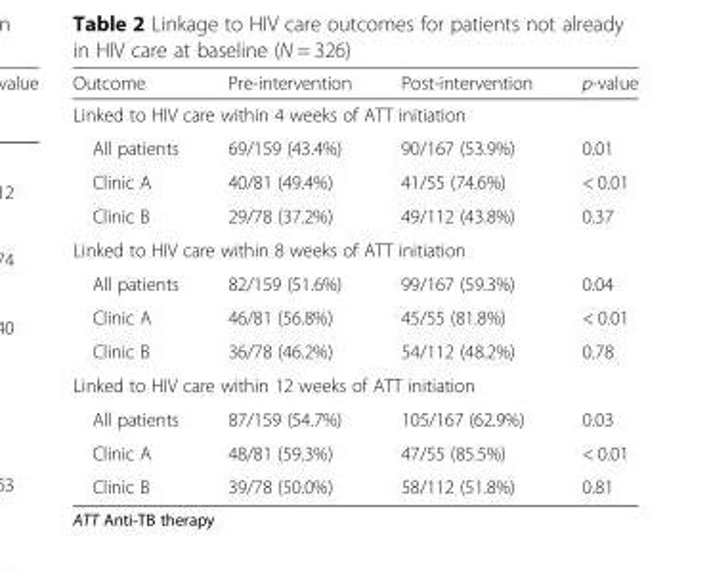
<table><thead><tr><td>Outcome</td><td>Pre-intervention</td><td>Post-intervention</td><td>p-value</td></tr></thead><tbody><tr><td colspan="4">Linked to HIV care within 4 weeks of ATT initiation</td></tr><tr><td>All patients</td><td>69/159 (43.4%)</td><td>90/167 (53.9%)</td><td>0.01</td></tr><tr><td>Clinic A</td><td>40/81 (49.4%)</td><td>41/55 (74.6%)</td><td>&lt; 0.01</td></tr><tr><td>Clinic B</td><td>29/78 (37.2%)</td><td>49/112 (43.8%)</td><td>0.37</td></tr><tr><td colspan="4">Linked to HIV care within 8 weeks of ATT initiation</td></tr><tr><td>All patients</td><td>82/159 (51.6%)</td><td>99/167 (59.3%)</td><td>0.04</td></tr><tr><td>Clinic A</td><td>46/81 (56.8%)</td><td>45/55 (81.8%)</td><td>&lt; 0.01</td></tr><tr><td>Clinic B</td><td>36/78 (46.2%)</td><td>54/112 (48.2%)</td><td>0.78</td></tr><tr><td colspan="4">Linked to HIV care within 12 weeks of ATT initiation</td></tr><tr><td>All patients</td><td>87/159 (54.7%)</td><td>105/167 (62.9%)</td><td>0.03</td></tr><tr><td>Clinic A</td><td>48/81 (59.3%)</td><td>47/55 (85.5%)</td><td>&lt; 0.01</td></tr><tr><td>Clinic B</td><td>39/78 (50.0%)</td><td>58/112 (51.8%)</td><td>0.81</td></tr></tbody></table>